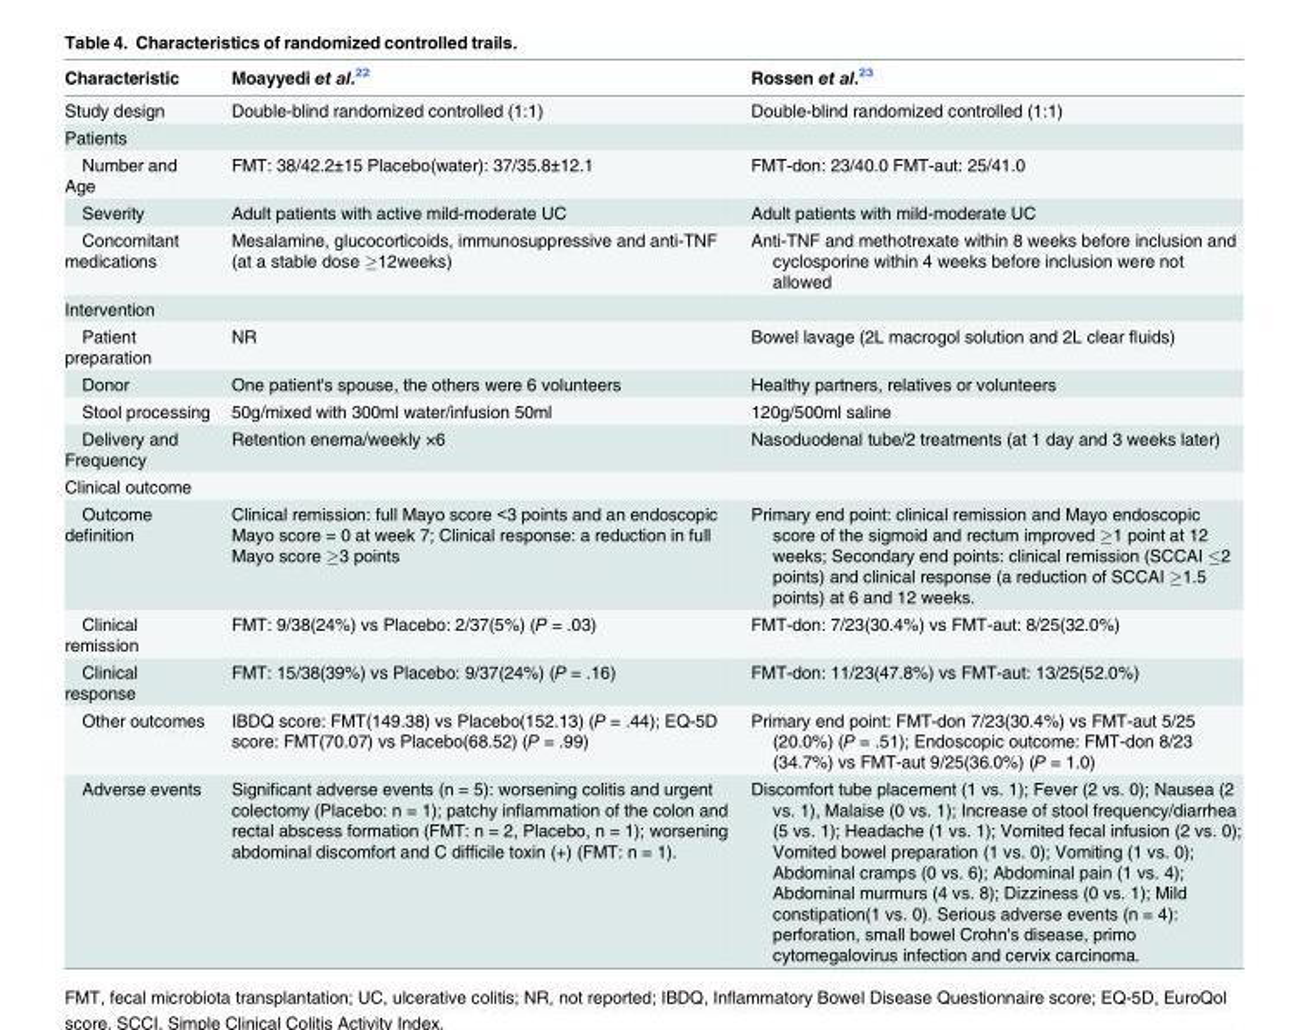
<table><thead><tr><td>Characteristic</td><td>Moayyedi et al.<sup>22</sup></td><td>Rossen et al.<sup>23</sup></td></tr></thead><tbody><tr><td>Study design</td><td>Double-blind randomized controlled (1:1)</td><td>Double-blind randomized controlled (1:1)</td></tr><tr><td colspan="3">Patients</td></tr><tr><td>Number and Age</td><td>FMT: 38/42.2±15 Placebo(water): 37/35.8±12.1</td><td>FMT-don: 23/40.0 FMT-aut: 25/41.0</td></tr><tr><td>Severity</td><td>Adult patients with active mild-moderate UC</td><td>Adult patients with mild-moderate UC</td></tr><tr><td>Concomitant medications</td><td>Mesalamine, glucocorticoids, immunosuppressive and anti-TNF (at a stable dose ≥12weeks)</td><td>Anti-TNF and methotrexate within 8 weeks before inclusion and cyclosporine within 4 weeks before inclusion were not allowed</td></tr><tr><td colspan="3">Intervention</td></tr><tr><td>Patient preparation</td><td>NR</td><td>Bowel lavage (2L macrogol solution and 2L clear fluids)</td></tr><tr><td>Donor</td><td>One patient&#x27;s spouse, the others were 6 volunteers</td><td>Healthy partners, relatives or volunteers</td></tr><tr><td>Stool processing</td><td>50g/mixed with 300ml water/infusion 50ml</td><td>120g/500ml saline</td></tr><tr><td>Delivery and Frequency</td><td>Retention enema/weekly ×6</td><td>Nasoduodenal tube/2 treatments (at 1 day and 3 weeks later)</td></tr><tr><td colspan="3">Clinical outcome</td></tr><tr><td>Outcome definition</td><td>Clinical remission: full Mayo score &lt;3 points and an endoscopic Mayo score = 0 at week 7; Clinical response: a reduction in full Mayo score ≥3 points</td><td>Primary end point: clinical remission and Mayo endoscopic score of the sigmoid and rectum improved ≥1 point at 12 weeks; Secondary end points: clinical remission (SCCAI ≤2 points) and clinical response (a reduction of SCCAI ≥1.5 points) at 6 and 12 weeks.</td></tr><tr><td>Clinical remission</td><td>FMT: 9/38(24%) vs Placebo: 2/37(5%) (P = .03)</td><td>FMT-don: 7/23(30.4%) vs FMT-aut: 8/25(32.0%)</td></tr><tr><td>Clinical response</td><td>FMT: 15/38(39%) vs Placebo: 9/37(24%) (P = .16)</td><td>FMT-don: 11/23(47.8%) vs FMT-aut: 13/25(52.0%)</td></tr><tr><td>Other outcomes</td><td>IBDQ score: FMT(149.38) vs Placebo(152.13) (P = .44); EQ-5D score: FMT(70.07) vs Placebo(68.52) (P = .99)</td><td>Primary end point: FMT-don 7/23(30.4%) vs FMT-aut 5/25 (20.0%) (P = .51); Endoscopic outcome: FMT-don 8/23 (34.7%) vs FMT-aut 9/25(36.0%) (P = 1.0)</td></tr><tr><td>Adverse events</td><td>Significant adverse events (n = 5): worsening colitis and urgent colectomy (Placebo: n = 1); patchy inflammation of the colon and rectal abscess formation (FMT: n = 2, Placebo, n = 1); worsening abdominal discomfort and C difficile toxin (+) (FMT: n = 1).</td><td>Discomfort tube placement (1 vs. 1); Fever (2 vs. 0); Nausea (2 vs. 1), Malaise (0 vs. 1); Increase of stool frequency/diarrhea (5 vs. 1); Headache (1 vs. 1); Vomited fecal infusion (2 vs. 0); Vomited bowel preparation (1 vs. 0); Vomiting (1 vs. 0); Abdominal cramps (0 vs. 6); Abdominal pain (1 vs. 4); Abdominal murmurs (4 vs. 8); Dizziness (0 vs. 1); Mild constipation(1 vs. 0). Serious adverse events (n = 4): perforation, small bowel Crohn&#x27;s disease, primo cytomegalovirus infection and cervix carcinoma.</td></tr></tbody></table>